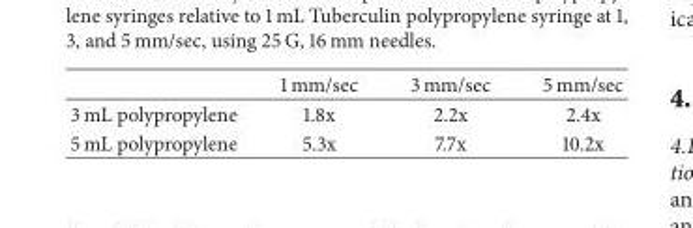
<table><thead><tr><td></td><td>1 mm/sec</td><td>3 mm/sec</td><td>5 mm/sec</td></tr></thead><tbody><tr><td>3 mL polypropylene</td><td>1.8x</td><td>2.2x</td><td>2.4x</td></tr><tr><td>5 mL polypropylene</td><td>5.3x</td><td>7.7x</td><td>10.2x</td></tr></tbody></table>